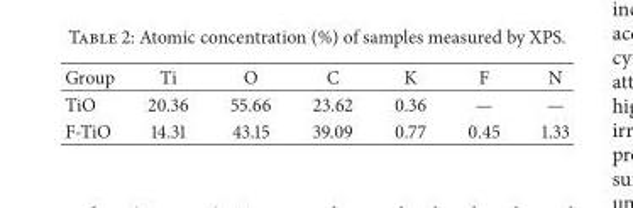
<table><thead><tr><td>Group</td><td>Ti</td><td>O</td><td>C</td><td>K</td><td>F</td><td>N</td></tr></thead><tbody><tr><td>TiO</td><td>20.36</td><td>55.66</td><td>23.62</td><td>0.36</td><td>—</td><td>—</td></tr><tr><td>F-TiO</td><td>14.31</td><td>43.15</td><td>39.09</td><td>0.77</td><td>0.45</td><td>1.33</td></tr></tbody></table>